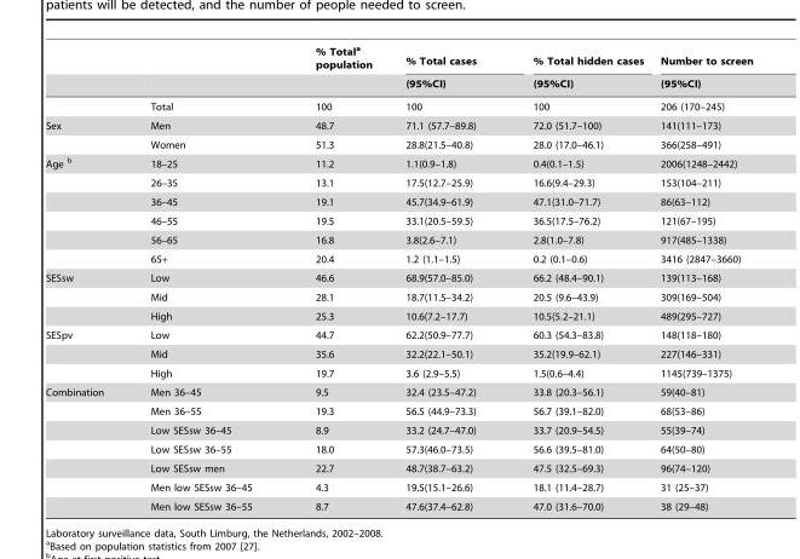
<table><thead><tr><td rowspan="2"></td><td rowspan="2"></td><td rowspan="2">% Total<sup>a</sup> population</td><td rowspan="2">% Total cases (95%CI)</td><td rowspan="2">% Total hidden cases (95%CI)</td><td rowspan="2">Number to screen (95%CI)</td></tr><tr></tr></thead><tbody><tr><td></td><td>Total</td><td>100</td><td>100</td><td>100</td><td>206 (170–245)</td></tr><tr><td rowspan="2">Sex</td><td>Men</td><td>48.7</td><td>71.1 (57.7–89.8)</td><td>72.0 (51.7–100)</td><td>141(111–173)</td></tr><tr><td>Women</td><td>51.3</td><td>28.8(21.5–40.8)</td><td>28.0 (17.0–46.1)</td><td>366(258–491)</td></tr><tr><td rowspan="6">Age b</td><td>18–25</td><td>11.2</td><td>1.1(0.9–1.8)</td><td>0.4(0.1–1.5)</td><td>2006(1248–2442)</td></tr><tr><td>26–35</td><td>13.1</td><td>17.5(12.7–25.9)</td><td>16.6(9.4–29.3)</td><td>153(104–211)</td></tr><tr><td>36–45</td><td>19.1</td><td>45.7(34.9–61.9)</td><td>47.1(31.0–71.7)</td><td>86(63–112)</td></tr><tr><td>46–55</td><td>19.5</td><td>33.1(20.5–59.5)</td><td>36.5(17.5–76.2)</td><td>121(67–195)</td></tr><tr><td>56–65</td><td>16.8</td><td>3.8(2.6–7.1)</td><td>2.8(1.0–7.8)</td><td>917(485–1338)</td></tr><tr><td>65+</td><td>20.4</td><td>1.2 (1.1–1.5)</td><td>0.2 (0.1–0.6)</td><td>3416 (2847–3660)</td></tr><tr><td rowspan="3">SESsw</td><td>Low</td><td>46.6</td><td>68.9(57.0–85.0)</td><td>66.2 (48.4–90.1)</td><td>139(113–168)</td></tr><tr><td>Mid</td><td>28.1</td><td>18.7(11.5–34.2)</td><td>20.5 (9.6–43.9)</td><td>309(169–504)</td></tr><tr><td>High</td><td>25.3</td><td>10.6(7.2–17.7)</td><td>10.5(5.2–21.1)</td><td>489(295–727)</td></tr><tr><td rowspan="3">SESpv</td><td>Low</td><td>44.7</td><td>62.2(50.9–77.7)</td><td>60.3 (54.3–83.8)</td><td>148(118–180)</td></tr><tr><td>Mid</td><td>35.6</td><td>32.2(22.1–50.1)</td><td>35.2(19.9–62.1)</td><td>227(146–331)</td></tr><tr><td>High</td><td>19.7</td><td>3.6 (2.9–5.5)</td><td>1.5(0.6–4.4)</td><td>1145(739–1375)</td></tr><tr><td rowspan="7">Combination</td><td>Men 36–45</td><td>9.5</td><td>32.4 (23.5–47.2)</td><td>33.8 (20.3–56.1)</td><td>59(40–81)</td></tr><tr><td>Men 36–55</td><td>19.3</td><td>56.5 (44.9–73.3)</td><td>56.7 (39.1–82.0)</td><td>68(53–86)</td></tr><tr><td>Low SESsw 36–45</td><td>8.9</td><td>33.2 (24.7–47.0)</td><td>33.7 (20.9–54.5)</td><td>55(39–74)</td></tr><tr><td>Low SESsw 36–55</td><td>18.0</td><td>57.3(46.0–73.5)</td><td>56.6 (39.5–81.0)</td><td>64(50–80)</td></tr><tr><td>Low SESsw men</td><td>22.7</td><td>48.7(38.7–63.2)</td><td>47.5 (32.5–69.3)</td><td>96(74–120)</td></tr><tr><td>Men low SESsw 36–45</td><td>4.3</td><td>19.5(15.1–26.6)</td><td>18.1 (11.4–28.7)</td><td>31 (25–37)</td></tr><tr><td>Men low SESsw 36–55</td><td>8.7</td><td>47.6(37.4–62.8)</td><td>47.0 (31.6–70.0)</td><td>38 (29–48)</td></tr></tbody></table>